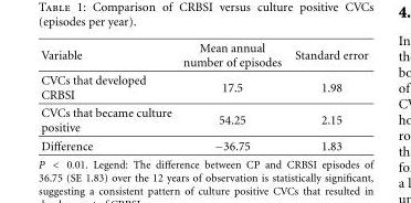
<table><thead><tr><td>Variable</td><td>Mean annual number of episodes</td><td>Standard error</td></tr></thead><tbody><tr><td>CVCs that developed CRBSI</td><td>17.5</td><td>1.98</td></tr><tr><td>CVCs that became culture positive</td><td>54.25</td><td>2.15</td></tr><tr><td>Difference</td><td>−36.75</td><td>1.83</td></tr></tbody></table>